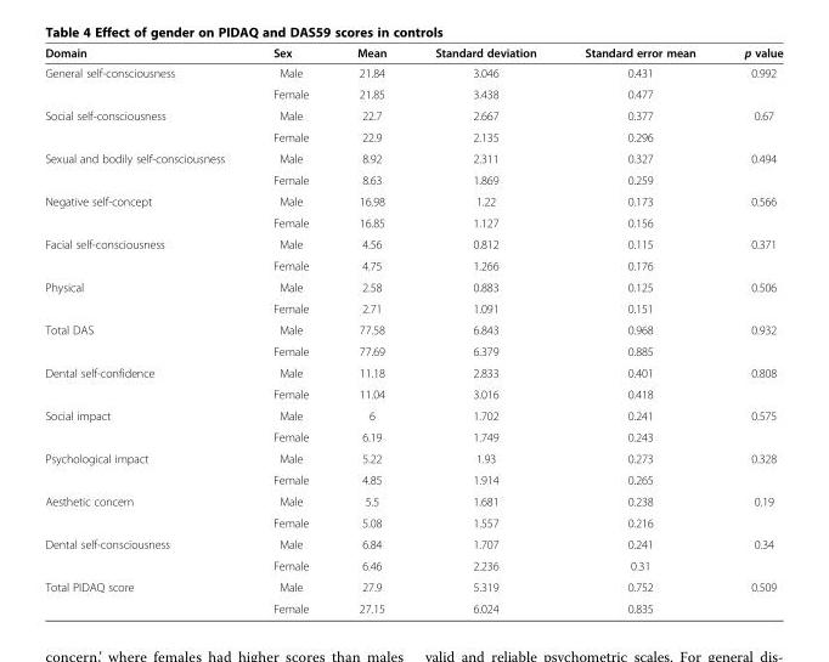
<table><thead><tr><td>Domain</td><td>Sex</td><td>Mean</td><td>Standard deviation</td><td>Standard error mean</td><td>p value</td></tr></thead><tbody><tr><td rowspan="2">General self-consciousness</td><td>Male</td><td>21.84</td><td>3.046</td><td>0.431</td><td rowspan="2">0.992</td></tr><tr><td>Female</td><td>21.85</td><td>3.438</td><td>0.477</td></tr><tr><td rowspan="2">Social self-consciousness</td><td>Male</td><td>22.7</td><td>2.667</td><td>0.377</td><td rowspan="2">0.67</td></tr><tr><td>Female</td><td>22.9</td><td>2.135</td><td>0.296</td></tr><tr><td rowspan="2">Sexual and bodily self-consciousness</td><td>Male</td><td>8.92</td><td>2.311</td><td>0.327</td><td rowspan="2">0.494</td></tr><tr><td>Female</td><td>8.63</td><td>1.869</td><td>0.259</td></tr><tr><td rowspan="2">Negative self-concept</td><td>Male</td><td>16.98</td><td>1.22</td><td>0.173</td><td rowspan="2">0.566</td></tr><tr><td>Female</td><td>16.85</td><td>1.127</td><td>0.156</td></tr><tr><td rowspan="2">Facial self-consciousness</td><td>Male</td><td>4.56</td><td>0.812</td><td>0.115</td><td rowspan="2">0.371</td></tr><tr><td>Female</td><td>4.75</td><td>1.266</td><td>0.176</td></tr><tr><td rowspan="2">Physical</td><td>Male</td><td>2.58</td><td>0.883</td><td>0.125</td><td rowspan="2">0.506</td></tr><tr><td>Female</td><td>2.71</td><td>1.091</td><td>0.151</td></tr><tr><td rowspan="2">Total DAS</td><td>Male</td><td>77.58</td><td>6.843</td><td>0.968</td><td rowspan="2">0.932</td></tr><tr><td>Female</td><td>77.69</td><td>6.379</td><td>0.885</td></tr><tr><td rowspan="2">Dental self-confidence</td><td>Male</td><td>11.18</td><td>2.833</td><td>0.401</td><td rowspan="2">0.808</td></tr><tr><td>Female</td><td>11.04</td><td>3.016</td><td>0.418</td></tr><tr><td rowspan="2">Social impact</td><td>Male</td><td>6</td><td>1.702</td><td>0.241</td><td rowspan="2">0.575</td></tr><tr><td>Female</td><td>6.19</td><td>1.749</td><td>0.243</td></tr><tr><td rowspan="2">Psychological impact</td><td>Male</td><td>5.22</td><td>1.93</td><td>0.273</td><td rowspan="2">0.328</td></tr><tr><td>Female</td><td>4.85</td><td>1.914</td><td>0.265</td></tr><tr><td rowspan="2">Aesthetic concern</td><td>Male</td><td>5.5</td><td>1.681</td><td>0.238</td><td rowspan="2">0.19</td></tr><tr><td>Female</td><td>5.08</td><td>1.557</td><td>0.216</td></tr><tr><td rowspan="2">Dental self-consciousness</td><td>Male</td><td>6.84</td><td>1.707</td><td>0.241</td><td rowspan="2">0.34</td></tr><tr><td>Female</td><td>6.46</td><td>2.236</td><td>0.31</td></tr><tr><td rowspan="2">Total PIDAQ score</td><td>Male</td><td>27.9</td><td>5.319</td><td>0.752</td><td rowspan="2">0.509</td></tr><tr><td>Female</td><td>27.15</td><td>6.024</td><td>0.835</td></tr></tbody></table>